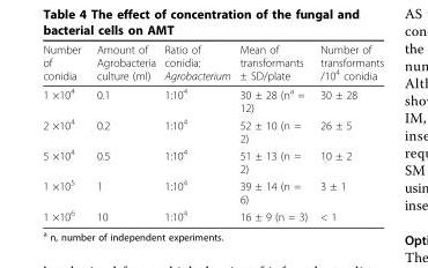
<table><thead><tr><td>Number of conidia</td><td>Amount of Agrobacteria culture (ml)</td><td>Ratio of conidia: Agrobacterium</td><td>Mean of transformants ± SD/plate</td><td>Number of transformants /10<sup>4</sup> conidia</td></tr></thead><tbody><tr><td>1 ×10<sup>4</sup></td><td>0.1</td><td>1:10<sup>4</sup></td><td>30 ± 28 (n<sup>a</sup> = 12)</td><td>30 ± 28</td></tr><tr><td>2 ×10<sup>4</sup></td><td>0.2</td><td>1:10<sup>4</sup></td><td>52 ± 10 (n = 2)</td><td>26 ± 5</td></tr><tr><td>5 ×10<sup>4</sup></td><td>0.5</td><td>1:10<sup>4</sup></td><td>51 ± 13 (n = 2)</td><td>10 ± 2</td></tr><tr><td>1 ×10<sup>5</sup></td><td>1</td><td>1:10<sup>4</sup></td><td>39 ± 14 (n = 6)</td><td>3 ± 1</td></tr><tr><td>1 ×10<sup>6</sup></td><td>10</td><td>1:10<sup>4</sup></td><td>16 ± 9 (n = 3)</td><td>&lt; 1</td></tr></tbody></table>